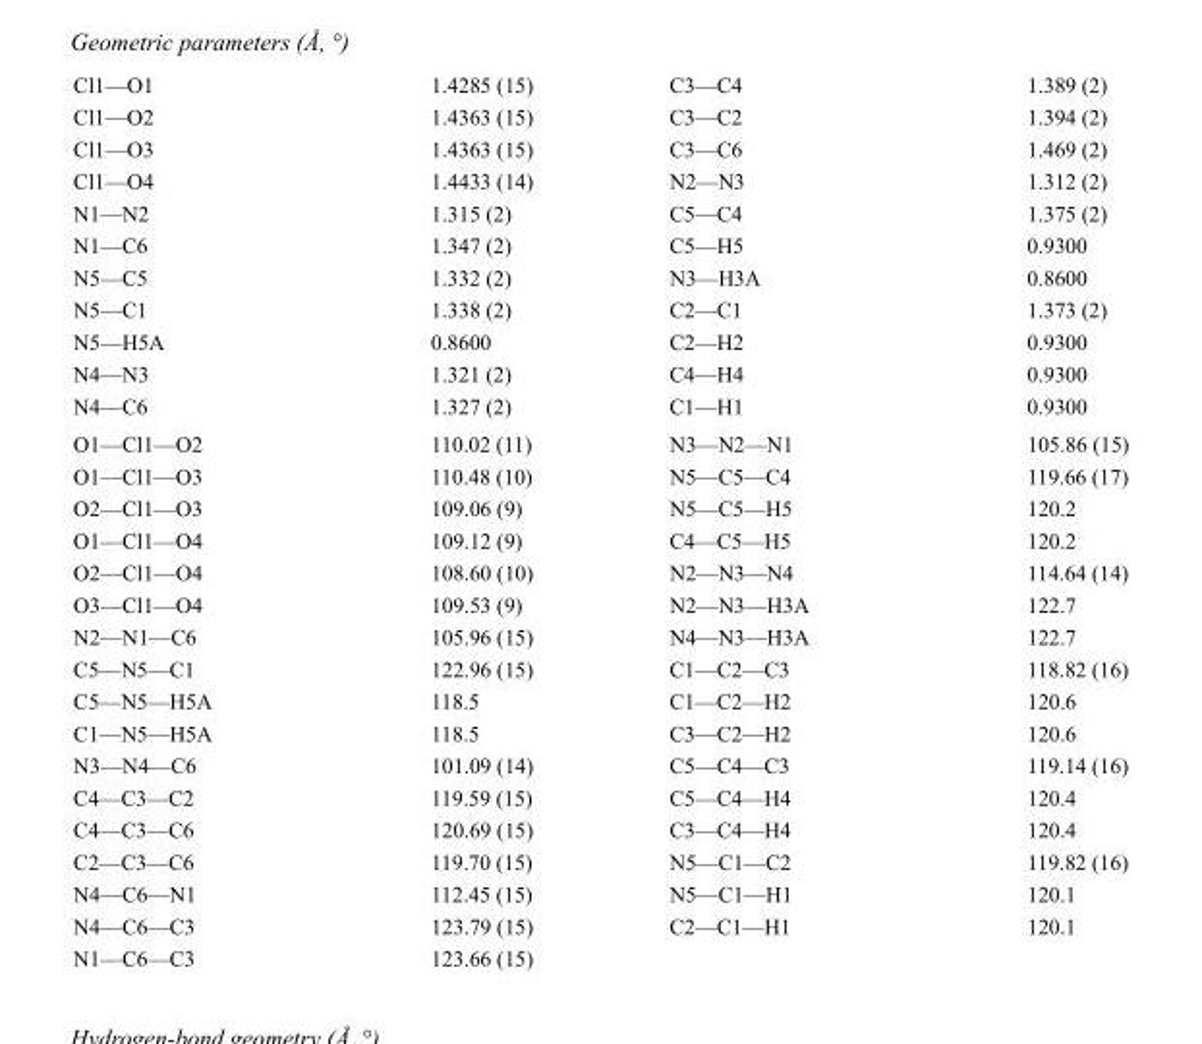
<table><tbody><tr><td>Cl1—O1</td><td>1.4285 (15)</td><td>C3—C4</td><td>1.389 (2)</td></tr><tr><td>Cl1—O2</td><td>1.4363 (15)</td><td>C3—C2</td><td>1.394 (2)</td></tr><tr><td>Cl1—O3</td><td>1.4363 (15)</td><td>C3—C6</td><td>1.469 (2)</td></tr><tr><td>Cl1—O4</td><td>1.4433 (14)</td><td>N2—N3</td><td>1.312 (2)</td></tr><tr><td>N1—N2</td><td>1.315 (2)</td><td>C5—C4</td><td>1.375 (2)</td></tr><tr><td>N1—C6</td><td>1.347 (2)</td><td>C5—H5</td><td>0.9300</td></tr><tr><td>N5—C5</td><td>1.332 (2)</td><td>N3—H3A</td><td>0.8600</td></tr><tr><td>N5—C1</td><td>1.338 (2)</td><td>C2—C1</td><td>1.373 (2)</td></tr><tr><td>N5—H5A</td><td>0.8600</td><td>C2—H2</td><td>0.9300</td></tr><tr><td>N4—N3</td><td>1.321 (2)</td><td>C4—H4</td><td>0.9300</td></tr><tr><td>N4—C6</td><td>1.327 (2)</td><td>C1—H1</td><td>0.9300</td></tr><tr><td>O1—Cl1—O2</td><td>110.02 (11)</td><td>N3—N2—N1</td><td>105.86 (15)</td></tr><tr><td>O1—Cl1—O3</td><td>110.48 (10)</td><td>N5—C5—C4</td><td>119.66 (17)</td></tr><tr><td>O2—Cl1—O3</td><td>109.06 (9)</td><td>N5—C5—H5</td><td>120.2</td></tr><tr><td>O1—Cl1—O4</td><td>109.12 (9)</td><td>C4—C5—H5</td><td>120.2</td></tr><tr><td>O2—Cl1—O4</td><td>108.60 (10)</td><td>N2—N3—N4</td><td>114.64 (14)</td></tr><tr><td>O3—Cl1—O4</td><td>109.53 (9)</td><td>N2—N3—H3A</td><td>122.7</td></tr><tr><td>N2—N1—C6</td><td>105.96 (15)</td><td>N4—N3—H3A</td><td>122.7</td></tr><tr><td>C5—N5—C1</td><td>122.96 (15)</td><td>C1—C2—C3</td><td>118.82 (16)</td></tr><tr><td>C5—N5—H5A</td><td>118.5</td><td>C1—C2—H2</td><td>120.6</td></tr><tr><td>C1—N5—H5A</td><td>118.5</td><td>C3—C2—H2</td><td>120.6</td></tr><tr><td>N3—N4—C6</td><td>101.09 (14)</td><td>C5—C4—C3</td><td>119.14 (16)</td></tr><tr><td>C4—C3—C2</td><td>119.59 (15)</td><td>C5—C4—H4</td><td>120.4</td></tr><tr><td>C4—C3—C6</td><td>120.69 (15)</td><td>C3—C4—H4</td><td>120.4</td></tr><tr><td>C2—C3—C6</td><td>119.70 (15)</td><td>N5—C1—C2</td><td>119.82 (16)</td></tr><tr><td>N4—C6—N1</td><td>112.45 (15)</td><td>N5—C1—H1</td><td>120.1</td></tr><tr><td>N4—C6—C3</td><td>123.79 (15)</td><td>C2—C1—H1</td><td>120.1</td></tr><tr><td>N1—C6—C3</td><td>123.66 (15)</td><td></td><td></td></tr></tbody></table>